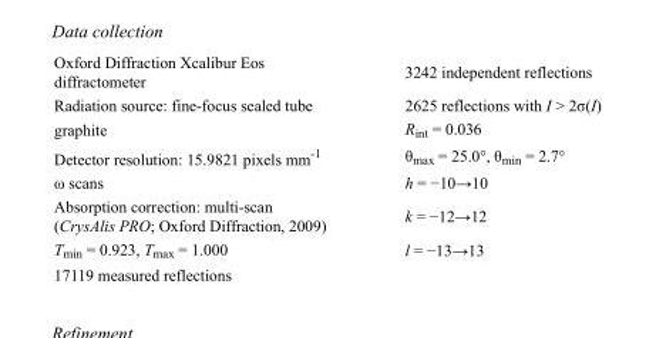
<table><tbody><tr><td>Oxford Diffraction Xcalibur Eos diffractometer</td><td>3242 independent reflections</td></tr><tr><td>Radiation source: fine-focus sealed tube</td><td>2625 reflections with I &gt; 2σ(I)</td></tr><tr><td>graphite</td><td>R<sub>int</sub> = 0.036</td></tr><tr><td>Detector resolution: 15.9821 pixels mm<sup>-1</sup></td><td>θ<sub>max</sub> = 25.0°, θ<sub>min</sub> = 2.7°</td></tr><tr><td>ω scans</td><td>h = −10→10</td></tr><tr><td>Absorption correction: multi-scan (CrysAlis PRO; Oxford Diffraction, 2009)</td><td>k = −12→12</td></tr><tr><td>T<sub>min</sub> = 0.923, T<sub>max</sub> = 1.000</td><td>l = −13→13</td></tr><tr><td>17119 measured reflections</td><td></td></tr></tbody></table>